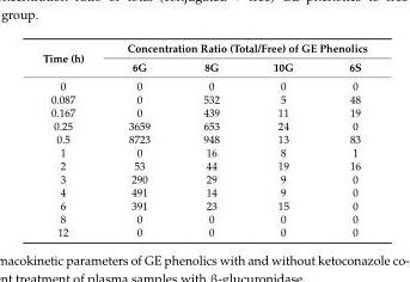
<table><thead><tr><td rowspan="2">Time (h)</td><td colspan="4">Concentration Ratio (Total/Free) of GE Phenolics</td></tr><tr><td>6G</td><td>8G</td><td>10G</td><td>6S</td></tr></thead><tbody><tr><td>0</td><td>0</td><td>0</td><td>0</td><td>0</td></tr><tr><td>0.087</td><td>0</td><td>532</td><td>5</td><td>48</td></tr><tr><td>0.167</td><td>0</td><td>439</td><td>11</td><td>19</td></tr><tr><td>0.25</td><td>3659</td><td>653</td><td>24</td><td>0</td></tr><tr><td>0.5</td><td>8723</td><td>948</td><td>13</td><td>83</td></tr><tr><td>1</td><td>0</td><td>16</td><td>8</td><td>1</td></tr><tr><td>2</td><td>53</td><td>44</td><td>19</td><td>16</td></tr><tr><td>3</td><td>290</td><td>29</td><td>9</td><td>0</td></tr><tr><td>4</td><td>491</td><td>14</td><td>9</td><td>0</td></tr><tr><td>6</td><td>391</td><td>23</td><td>15</td><td>0</td></tr><tr><td>8</td><td>0</td><td>0</td><td>0</td><td>0</td></tr><tr><td>12</td><td>0</td><td>0</td><td>0</td><td>0</td></tr></tbody></table>